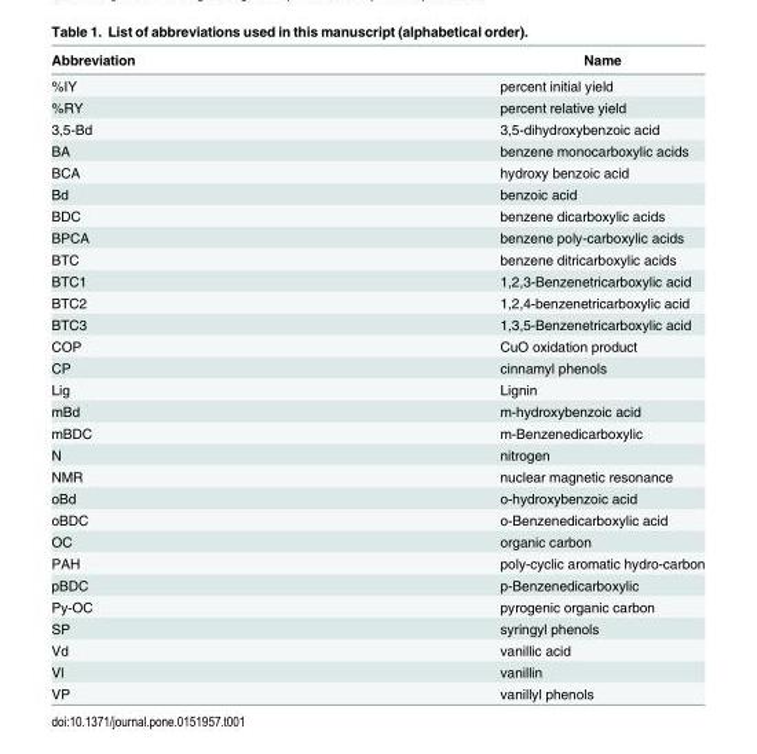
<table><thead><tr><td>Abbreviation</td><td>Name</td></tr></thead><tbody><tr><td>%IY</td><td>percent initial yield</td></tr><tr><td>%RY</td><td>percent relative yield</td></tr><tr><td>3,5-Bd</td><td>3,5-dihydroxybenzoic acid</td></tr><tr><td>BA</td><td>benzene monocarboxylic acids</td></tr><tr><td>BCA</td><td>hydroxy benzoic acid</td></tr><tr><td>Bd</td><td>benzoic acid</td></tr><tr><td>BDC</td><td>benzene dicarboxylic acids</td></tr><tr><td>BPCA</td><td>benzene poly-carboxylic acids</td></tr><tr><td>BTC</td><td>benzene ditricarboxylic acids</td></tr><tr><td>BTC1</td><td>1,2,3-Benzenetricarboxylic acid</td></tr><tr><td>BTC2</td><td>1,2,4-benzenetricarboxylic acid</td></tr><tr><td>BTC3</td><td>1,3,5-Benzenetricarboxylic acid</td></tr><tr><td>COP</td><td>CuO oxidation product</td></tr><tr><td>CP</td><td>cinnamyl phenols</td></tr><tr><td>Lig</td><td>Lignin</td></tr><tr><td>mBd</td><td>m-hydroxybenzoic acid</td></tr><tr><td>mBDC</td><td>m-Benzenedicarboxylic</td></tr><tr><td>N</td><td>nitrogen</td></tr><tr><td>NMR</td><td>nuclear magnetic resonance</td></tr><tr><td>oBd</td><td>o-hydroxybenzoic acid</td></tr><tr><td>oBDC</td><td>o-Benzenedicarboxylic acid</td></tr><tr><td>OC</td><td>organic carbon</td></tr><tr><td>PAH</td><td>poly-cyclic aromatic hydro-carbon</td></tr><tr><td>pBDC</td><td>p-Benzenedicarboxylic</td></tr><tr><td>Py-OC</td><td>pyrogenic organic carbon</td></tr><tr><td>SP</td><td>syringyl phenols</td></tr><tr><td>Vd</td><td>vanillic acid</td></tr><tr><td>Vl</td><td>vanillin</td></tr><tr><td>VP</td><td>vanillyl phenols</td></tr></tbody></table>